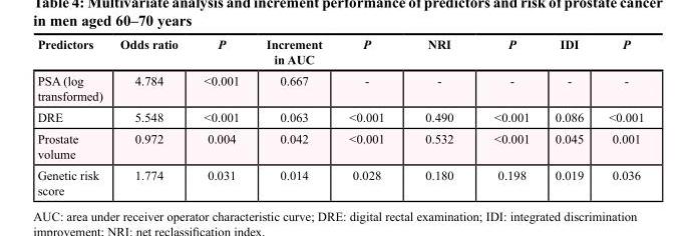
<table><thead><tr><td>Predictors</td><td>Odds ratio</td><td>P</td><td>Increment in AUC</td><td>P</td><td>NRI</td><td>P</td><td>IDI</td><td>P</td></tr></thead><tbody><tr><td>PSA (log transformed)</td><td>4.784</td><td>&lt;0.001</td><td>0.667</td><td>-</td><td>-</td><td>-</td><td>-</td><td>-</td></tr><tr><td>DRE</td><td>5.548</td><td>&lt;0.001</td><td>0.063</td><td>&lt;0.001</td><td>0.490</td><td>&lt;0.001</td><td>0.086</td><td>&lt;0.001</td></tr><tr><td>Prostate volume</td><td>0.972</td><td>0.004</td><td>0.042</td><td>&lt;0.001</td><td>0.532</td><td>&lt;0.001</td><td>0.045</td><td>0.001</td></tr><tr><td>Genetic risk score</td><td>1.774</td><td>0.031</td><td>0.014</td><td>0.028</td><td>0.180</td><td>0.198</td><td>0.019</td><td>0.036</td></tr></tbody></table>